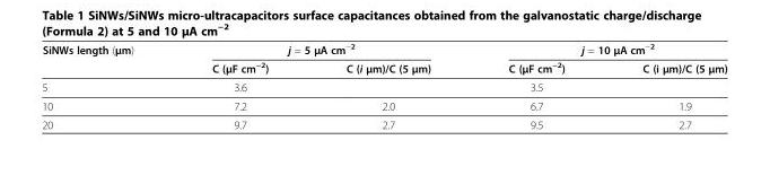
<table><thead><tr><td rowspan="2">SiNWs length (μm)</td><td colspan="2">j = 5 μA cm<sup>−2</sup></td><td colspan="2">j = 10 μA cm<sup>−2</sup></td></tr><tr><td>C (μF cm<sup>−2</sup>)</td><td>C (i μm)/C (5 μm)</td><td>C (μF cm<sup>−2</sup>)</td><td>C (i μm)/C (5 μm)</td></tr></thead><tbody><tr><td>5</td><td>3.6</td><td></td><td>3.5</td><td></td></tr><tr><td>10</td><td>7.2</td><td>2.0</td><td>6.7</td><td>1.9</td></tr><tr><td>20</td><td>9.7</td><td>2.7</td><td>9.5</td><td>2.7</td></tr></tbody></table>